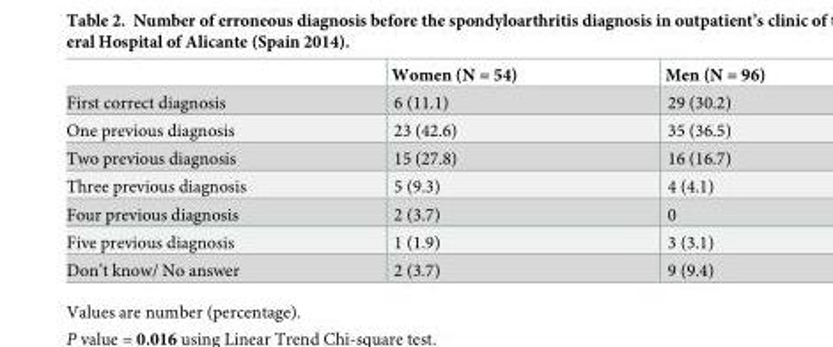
<table><thead><tr><td></td><td>Women (N = 54)</td><td>Men (N = 96)</td></tr></thead><tbody><tr><td>First correct diagnosis</td><td>6 (11.1)</td><td>29 (30.2)</td></tr><tr><td>One previous diagnosis</td><td>23 (42.6)</td><td>35 (36.5)</td></tr><tr><td>Two previous diagnosis</td><td>15 (27.8)</td><td>16 (16.7)</td></tr><tr><td>Three previous diagnosis</td><td>5 (9.3)</td><td>4 (4.1)</td></tr><tr><td>Four previous diagnosis</td><td>2 (3.7)</td><td>0</td></tr><tr><td>Five previous diagnosis</td><td>1 (1.9)</td><td>3 (3.1)</td></tr><tr><td>Don’t know/ No answer</td><td>2 (3.7)</td><td>9 (9.4)</td></tr></tbody></table>